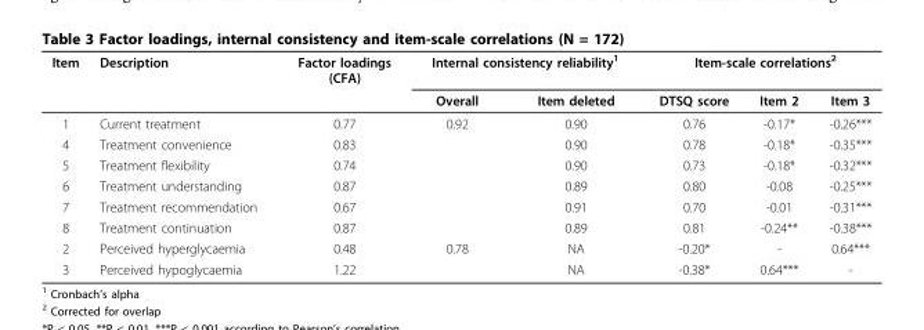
<table><thead><tr><td rowspan="2">Item</td><td rowspan="2">Description</td><td rowspan="2">Factor loadings (CFA)</td><td colspan="2">Internal consistency reliability<sup>1</sup></td><td colspan="3">Item-scale correlations<sup>2</sup></td></tr><tr><td>Overall</td><td>Item deleted</td><td>DTSQ score</td><td>Item 2</td><td>Item 3</td></tr></thead><tbody><tr><td>1</td><td>Current treatment</td><td>0.77</td><td>0.92</td><td>0.90</td><td>0.76</td><td>-0.17*</td><td>-0.26***</td></tr><tr><td>4</td><td>Treatment convenience</td><td>0.83</td><td></td><td>0.90</td><td>0.78</td><td>-0.18*</td><td>-0.35***</td></tr><tr><td>5</td><td>Treatment flexibility</td><td>0.74</td><td></td><td>0.90</td><td>0.73</td><td>-0.18*</td><td>-0.32***</td></tr><tr><td>6</td><td>Treatment understanding</td><td>0.87</td><td></td><td>0.89</td><td>0.80</td><td>-0.08</td><td>-0.25***</td></tr><tr><td>7</td><td>Treatment recommendation</td><td>0.67</td><td></td><td>0.91</td><td>0.70</td><td>-0.01</td><td>-0.31***</td></tr><tr><td>8</td><td>Treatment continuation</td><td>0.87</td><td></td><td>0.89</td><td>0.81</td><td>-0.24**</td><td>-0.38***</td></tr><tr><td>2</td><td>Perceived hyperglycaemia</td><td>0.48</td><td>0.78</td><td>NA</td><td>-0.20*</td><td>-</td><td>0.64***</td></tr><tr><td>3</td><td>Perceived hypoglycaemia</td><td>1.22</td><td></td><td>NA</td><td>-0.38*</td><td>0.64***</td><td>-</td></tr></tbody></table>